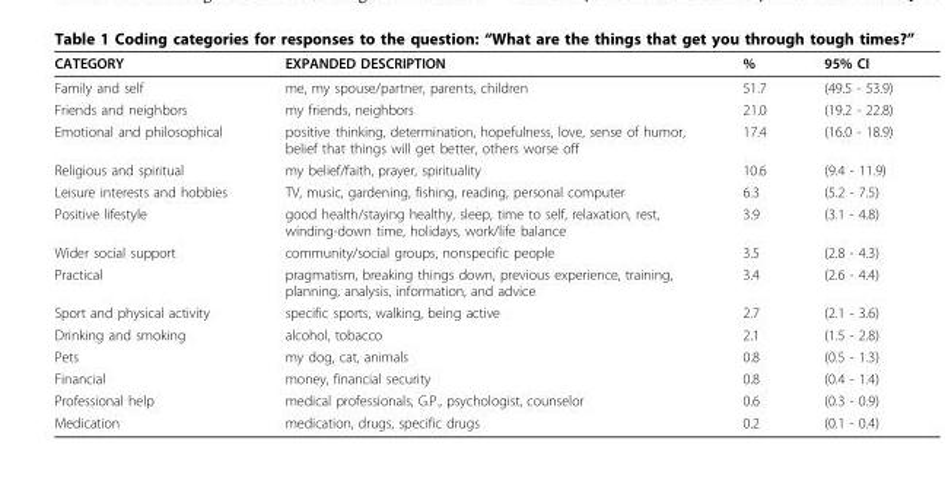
<table><thead><tr><td>CATEGORY</td><td>EXPANDED DESCRIPTION</td><td>%</td><td>95% CI</td></tr></thead><tbody><tr><td>Family and self</td><td>me, my spouse/partner, parents, children</td><td>51.7</td><td>(49.5 - 53.9)</td></tr><tr><td>Friends and neighbors</td><td>my friends, neighbors</td><td>21.0</td><td>(19.2 - 22.8)</td></tr><tr><td>Emotional and philosophical</td><td>positive thinking, determination, hopefulness, love, sense of humor, belief that things will get better, others worse off</td><td>17.4</td><td>(16.0 - 18.9)</td></tr><tr><td>Religious and spiritual</td><td>my belief/faith, prayer, spirituality</td><td>10.6</td><td>(9.4 - 11.9)</td></tr><tr><td>Leisure interests and hobbies</td><td>TV, music, gardening, fishing, reading, personal computer</td><td>6.3</td><td>(5.2 - 7.5)</td></tr><tr><td>Positive lifestyle</td><td>good health/staying healthy, sleep, time to self, relaxation, rest, winding-down time, holidays, work/life balance</td><td>3.9</td><td>(3.1 - 4.8)</td></tr><tr><td>Wider social support</td><td>community/social groups, nonspecific people</td><td>3.5</td><td>(2.8 - 4.3)</td></tr><tr><td>Practical</td><td>pragmatism, breaking things down, previous experience, training, planning, analysis, information, and advice</td><td>3.4</td><td>(2.6 - 4.4)</td></tr><tr><td>Sport and physical activity</td><td>specific sports, walking, being active</td><td>2.7</td><td>(2.1 - 3.6)</td></tr><tr><td>Drinking and smoking</td><td>alcohol, tobacco</td><td>2.1</td><td>(1.5 - 2.8)</td></tr><tr><td>Pets</td><td>my dog, cat, animals</td><td>0.8</td><td>(0.5 - 1.3)</td></tr><tr><td>Financial</td><td>money, financial security</td><td>0.8</td><td>(0.4 - 1.4)</td></tr><tr><td>Professional help</td><td>medical professionals, G.P., psychologist, counselor</td><td>0.6</td><td>(0.3 - 0.9)</td></tr><tr><td>Medication</td><td>medication, drugs, specific drugs</td><td>0.2</td><td>(0.1 - 0.4)</td></tr></tbody></table>